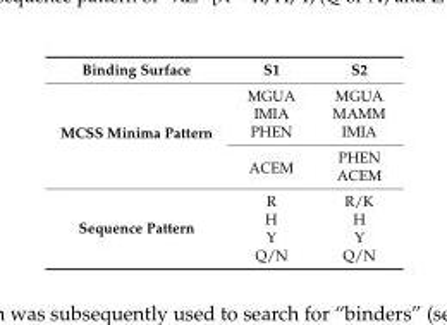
<table><thead><tr><td>Binding Surface</td><td>S1</td><td>S2</td></tr></thead><tbody><tr><td rowspan="5">MCSS Minima Pattern</td><td>MGUA</td><td>MGUA</td></tr><tr><td>IMIA</td><td>MAMM</td></tr><tr><td>PHEN</td><td>IMIA</td></tr><tr><td rowspan="2">ACEM</td><td>PHEN</td></tr><tr><td>ACEM</td></tr><tr><td rowspan="4">Sequence Pattern</td><td>R</td><td>R/K</td></tr><tr><td>H</td><td>H</td></tr><tr><td>Y</td><td>Y</td></tr><tr><td>Q/N</td><td>Q/N</td></tr></tbody></table>